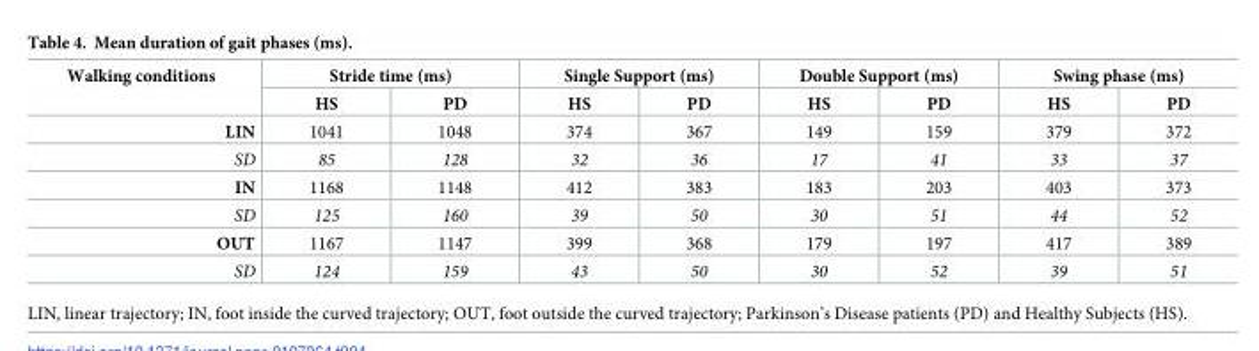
<table><thead><tr><td rowspan="2">Walking conditions</td><td colspan="2">Stride time (ms)</td><td colspan="2">Single Support (ms)</td><td colspan="2">Double Support (ms)</td><td colspan="2">Swing phase (ms)</td></tr><tr><td>HS</td><td>PD</td><td>HS</td><td>PD</td><td>HS</td><td>PD</td><td>HS</td><td>PD</td></tr></thead><tbody><tr><td>LIN</td><td>1041</td><td>1048</td><td>374</td><td>367</td><td>149</td><td>159</td><td>379</td><td>372</td></tr><tr><td>SD</td><td>85</td><td>128</td><td>32</td><td>36</td><td>17</td><td>41</td><td>33</td><td>37</td></tr><tr><td>IN</td><td>1168</td><td>1148</td><td>412</td><td>383</td><td>183</td><td>203</td><td>403</td><td>373</td></tr><tr><td>SD</td><td>125</td><td>160</td><td>39</td><td>50</td><td>30</td><td>51</td><td>44</td><td>52</td></tr><tr><td>OUT</td><td>1167</td><td>1147</td><td>399</td><td>368</td><td>179</td><td>197</td><td>417</td><td>389</td></tr><tr><td>SD</td><td>124</td><td>159</td><td>43</td><td>50</td><td>30</td><td>52</td><td>39</td><td>51</td></tr></tbody></table>